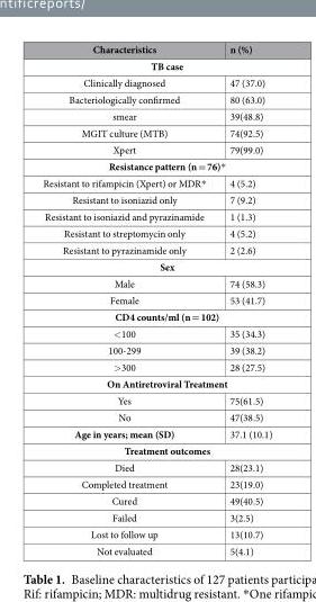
<table><thead><tr><td>Characteristics</td><td>n (%)</td></tr></thead><tbody><tr><td colspan="2">TB case</td></tr><tr><td>Clinically diagnosed</td><td>47 (37.0)</td></tr><tr><td>Bacteriologically confirmed</td><td>80 (63.0)</td></tr><tr><td>smear</td><td>39(48.8)</td></tr><tr><td>MGIT culture (MTB)</td><td>74(92.5)</td></tr><tr><td>Xpert</td><td>79(99.0)</td></tr><tr><td colspan="2">Resistance pattern (n = 76)*</td></tr><tr><td>Resistant to rifampicin (Xpert) or MDR*</td><td>4 (5.2)</td></tr><tr><td>Resistant to isoniazid only</td><td>7 (9.2)</td></tr><tr><td>Resistant to isoniazid and pyrazinamide</td><td>1 (1.3)</td></tr><tr><td>Resistant to streptomycin only</td><td>4 (5.2)</td></tr><tr><td>Resistant to pyrazinamide only</td><td>2 (2.6)</td></tr><tr><td colspan="2">Sex</td></tr><tr><td>Male</td><td>74 (58.3)</td></tr><tr><td>Female</td><td>53 (41.7)</td></tr><tr><td colspan="2">CD4 counts/ml (n = 102)</td></tr><tr><td>&lt;100</td><td>35 (34.3)</td></tr><tr><td>100-299</td><td>39 (38.2)</td></tr><tr><td>&gt;300</td><td>28 (27.5)</td></tr><tr><td colspan="2">On Antiretroviral Treatment</td></tr><tr><td>Yes</td><td>75(61.5)</td></tr><tr><td>No</td><td>47(38.5)</td></tr><tr><td>Age in years; mean (SD)</td><td>37.1 (10.1)</td></tr><tr><td colspan="2">Treatment outcomes</td></tr><tr><td>Died</td><td>28(23.1)</td></tr><tr><td>Completed treatment</td><td>23(19.0)</td></tr><tr><td>Cured</td><td>49(40.5)</td></tr><tr><td>Failed</td><td>3(2.5)</td></tr><tr><td>Lost to follow up</td><td>13(10.7)</td></tr><tr><td>Not evaluated</td><td>5(4.1)</td></tr></tbody></table>